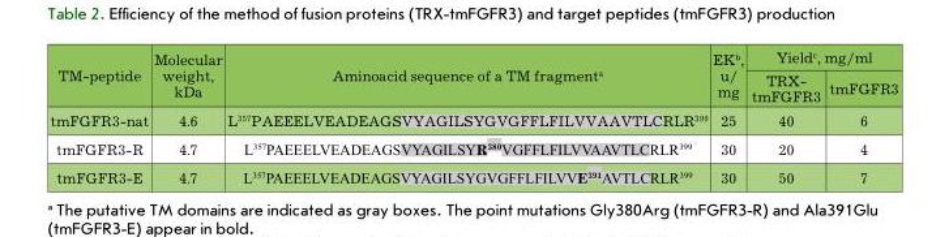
<table><thead><tr><td rowspan="2">TM-peptide</td><td rowspan="2">Molecular weight, kDa</td><td rowspan="2">Aminoacid sequence of a TM fragment<sup>a</sup></td><td rowspan="2">EK<sup>b</sup>, u/ mg</td><td colspan="2">Yield<sup>c</sup>, mg/ml</td></tr><tr><td>TRX- tmFGFR3</td><td>tmFGFR3</td></tr></thead><tbody><tr><td>tmFGFR3-nat</td><td>4.6</td><td>L<sup>357</sup>PAEEELVEADEAGSVYAGILSYGVGFFLFILVVAAVTLCRLR<sup>399</sup></td><td>25</td><td>40</td><td>6</td></tr><tr><td>tmFGFR3-R</td><td>4.7</td><td>L<sup>357</sup>PAEEELVEADEAGSVYAGILSYR<sup>380</sup>VGFFLFILVVAAVTLCRLR<sup>399</sup></td><td>30</td><td>20</td><td>4</td></tr><tr><td>tmFGFR3-E</td><td>4.7</td><td>L<sup>357</sup>PAEEELVEADEAGSVYAGILSYGVGFFLFILVVE<sup>391</sup>AVTLCRLR<sup>399</sup></td><td>30</td><td>50</td><td>7</td></tr></tbody></table>